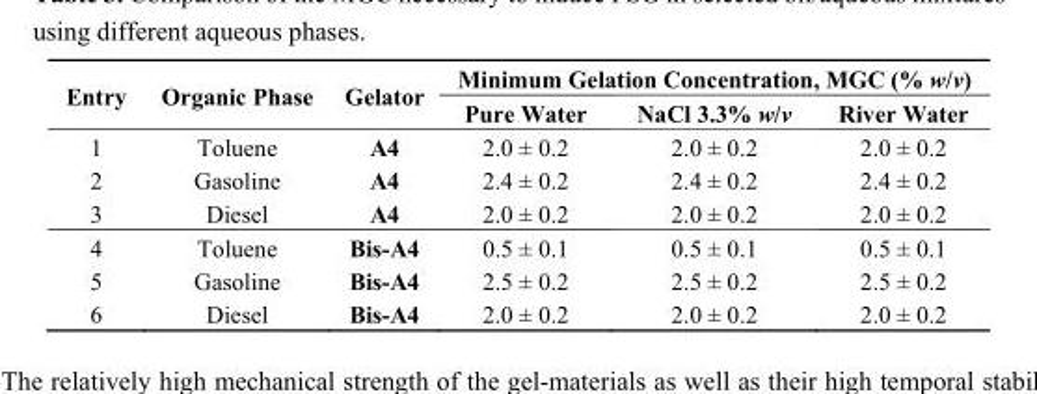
<table><thead><tr><td rowspan="2">Entry</td><td rowspan="2">Organic Phase</td><td rowspan="2">Gelator</td><td colspan="3">Minimum Gelation Concentration, MGC (% w/v)</td></tr><tr><td>Pure Water</td><td>NaCl 3.3% w/v</td><td>River Water</td></tr></thead><tbody><tr><td>1</td><td>Toluene</td><td>A4</td><td>2.0 ± 0.2</td><td>2.0 ± 0.2</td><td>2.0 ± 0.2</td></tr><tr><td>2</td><td>Gasoline</td><td>A4</td><td>2.4 ± 0.2</td><td>2.4 ± 0.2</td><td>2.4 ± 0.2</td></tr><tr><td>3</td><td>Diesel</td><td>A4</td><td>2.0 ± 0.2</td><td>2.0 ± 0.2</td><td>2.0 ± 0.2</td></tr><tr><td>4</td><td>Toluene</td><td>Bis-A4</td><td>0.5 ± 0.1</td><td>0.5 ± 0.1</td><td>0.5 ± 0.1</td></tr><tr><td>5</td><td>Gasoline</td><td>Bis-A4</td><td>2.5 ± 0.2</td><td>2.5 ± 0.2</td><td>2.5 ± 0.2</td></tr><tr><td>6</td><td>Diesel</td><td>Bis-A4</td><td>2.0 ± 0.2</td><td>2.0 ± 0.2</td><td>2.0 ± 0.2</td></tr></tbody></table>